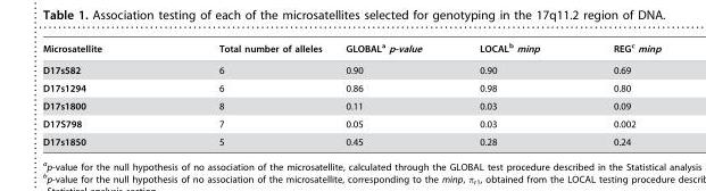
<table><thead><tr><td>Microsatellite</td><td>Total number of alleles</td><td>GLOBAL<sup>a</sup> p-value</td><td>LOCAL<sup>b</sup> minp</td><td>REG<sup>c</sup> minp</td></tr></thead><tbody><tr><td>D17s582</td><td>6</td><td>0.90</td><td>0.90</td><td>0.69</td></tr><tr><td>D17s1294</td><td>6</td><td>0.86</td><td>0.98</td><td>0.80</td></tr><tr><td>D17s1800</td><td>8</td><td>0.11</td><td>0.03</td><td>0.09</td></tr><tr><td>D17S798</td><td>7</td><td>0.05</td><td>0.03</td><td>0.002</td></tr><tr><td>D17s1850</td><td>5</td><td>0.45</td><td>0.28</td><td>0.24</td></tr></tbody></table>